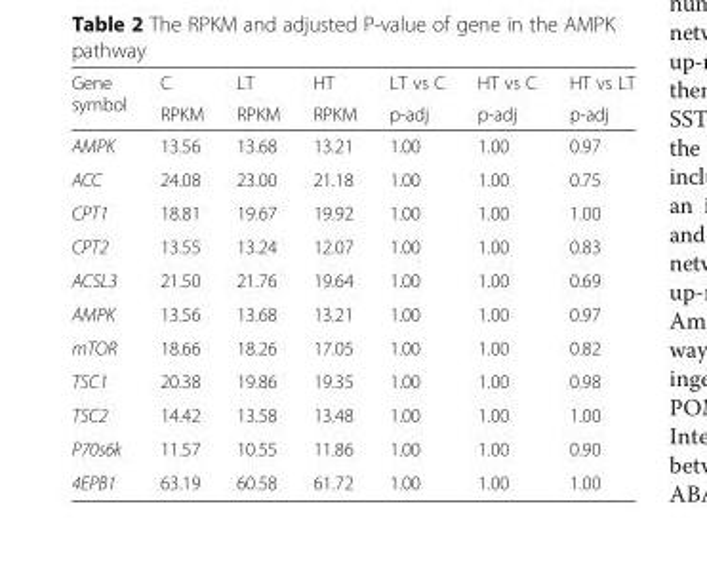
<table><thead><tr><td rowspan="2">Gene symbol</td><td rowspan="2">C RPKM</td><td rowspan="2">LT RPKM</td><td rowspan="2">HT RPKM</td><td rowspan="2">LT vs C p-adj</td><td rowspan="2">HT vs C p-adj</td><td rowspan="2">HT vs LT p-adj</td></tr><tr></tr></thead><tbody><tr><td>AMPK</td><td>13.56</td><td>13.68</td><td>13.21</td><td>1.00</td><td>1.00</td><td>0.97</td></tr><tr><td>ACC</td><td>24.08</td><td>23.00</td><td>21.18</td><td>1.00</td><td>1.00</td><td>0.75</td></tr><tr><td>CPT1</td><td>18.81</td><td>19.67</td><td>19.92</td><td>1.00</td><td>1.00</td><td>1.00</td></tr><tr><td>CPT2</td><td>13.55</td><td>13.24</td><td>12.07</td><td>1.00</td><td>1.00</td><td>0.83</td></tr><tr><td>ACSL3</td><td>21.50</td><td>21.76</td><td>19.64</td><td>1.00</td><td>1.00</td><td>0.69</td></tr><tr><td>AMPK</td><td>13.56</td><td>13.68</td><td>13.21</td><td>1.00</td><td>1.00</td><td>0.97</td></tr><tr><td>mTOR</td><td>18.66</td><td>18.26</td><td>17.05</td><td>1.00</td><td>1.00</td><td>0.82</td></tr><tr><td>TSC1</td><td>20.38</td><td>19.86</td><td>19.35</td><td>1.00</td><td>1.00</td><td>0.98</td></tr><tr><td>TSC2</td><td>14.42</td><td>13.58</td><td>13.48</td><td>1.00</td><td>1.00</td><td>1.00</td></tr><tr><td>P70s6k</td><td>11.57</td><td>10.55</td><td>11.86</td><td>1.00</td><td>1.00</td><td>0.90</td></tr><tr><td>4EPB1</td><td>63.19</td><td>60.58</td><td>61.72</td><td>1.00</td><td>1.00</td><td>1.00</td></tr></tbody></table>